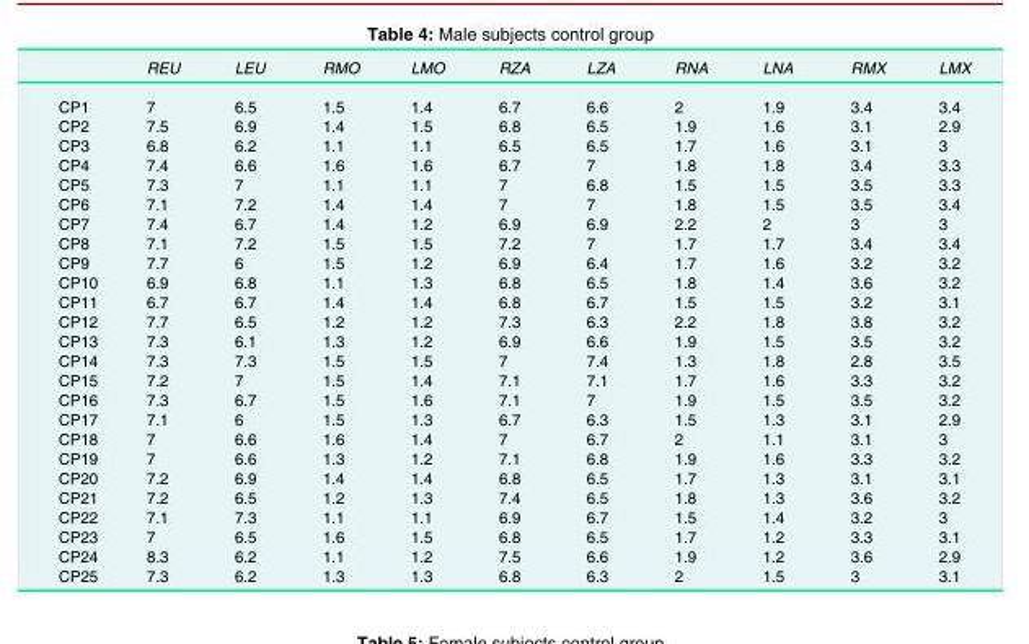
<table><thead><tr><td></td><td>REU</td><td>LEU</td><td>RMO</td><td>LMO</td><td>RZA</td><td>LZA</td><td>RNA</td><td>LNA</td><td>RMX</td><td>LMX</td></tr></thead><tbody><tr><td>CP1</td><td>7</td><td>6.5</td><td>1.5</td><td>1.4</td><td>6.7</td><td>6.6</td><td>2</td><td>1.9</td><td>3.4</td><td>3.4</td></tr><tr><td>CP2</td><td>7.5</td><td>6.9</td><td>1.4</td><td>1.5</td><td>6.8</td><td>6.5</td><td>1.9</td><td>1.6</td><td>3.1</td><td>2.9</td></tr><tr><td>CP3</td><td>6.8</td><td>6.2</td><td>1.1</td><td>1.1</td><td>6.5</td><td>6.5</td><td>1.7</td><td>1.6</td><td>3.1</td><td>3</td></tr><tr><td>CP4</td><td>7.4</td><td>6.6</td><td>1.6</td><td>1.6</td><td>6.7</td><td>7</td><td>1.8</td><td>1.8</td><td>3.4</td><td>3.3</td></tr><tr><td>CP5</td><td>7.3</td><td>7</td><td>1.1</td><td>1.1</td><td>7</td><td>6.8</td><td>1.5</td><td>1.5</td><td>3.5</td><td>3.3</td></tr><tr><td>CP6</td><td>7.1</td><td>7.2</td><td>1.4</td><td>1.4</td><td>7</td><td>7</td><td>1.8</td><td>1.5</td><td>3.5</td><td>3.4</td></tr><tr><td>CP7</td><td>7.4</td><td>6.7</td><td>1.4</td><td>1.2</td><td>6.9</td><td>6.9</td><td>2.2</td><td>2</td><td>3</td><td>3</td></tr><tr><td>CP8</td><td>7.1</td><td>7.2</td><td>1.5</td><td>1.5</td><td>7.2</td><td>7</td><td>1.7</td><td>1.7</td><td>3.4</td><td>3.4</td></tr><tr><td>CP9</td><td>7.7</td><td>6</td><td>1.5</td><td>1.2</td><td>6.9</td><td>6.4</td><td>1.7</td><td>1.6</td><td>3.2</td><td>3.2</td></tr><tr><td>CP10</td><td>6.9</td><td>6.8</td><td>1.1</td><td>1.3</td><td>6.8</td><td>6.5</td><td>1.8</td><td>1.4</td><td>3.6</td><td>3.2</td></tr><tr><td>CP11</td><td>6.7</td><td>6.7</td><td>1.4</td><td>1.4</td><td>6.8</td><td>6.7</td><td>1.5</td><td>1.5</td><td>3.2</td><td>3.1</td></tr><tr><td>CP12</td><td>7.7</td><td>6.5</td><td>1.2</td><td>1.2</td><td>7.3</td><td>6.3</td><td>2.2</td><td>1.8</td><td>3.8</td><td>3.2</td></tr><tr><td>CP13</td><td>7.3</td><td>6.1</td><td>1.3</td><td>1.2</td><td>6.9</td><td>6.6</td><td>1.9</td><td>1.5</td><td>3.5</td><td>3.2</td></tr><tr><td>CP14</td><td>7.3</td><td>7.3</td><td>1.5</td><td>1.5</td><td>7</td><td>7.4</td><td>1.3</td><td>1.8</td><td>2.8</td><td>3.5</td></tr><tr><td>CP15</td><td>7.2</td><td>7</td><td>1.5</td><td>1.4</td><td>7.1</td><td>7.1</td><td>1.7</td><td>1.6</td><td>3.3</td><td>3.2</td></tr><tr><td>CP16</td><td>7.3</td><td>6.7</td><td>1.5</td><td>1.6</td><td>7.1</td><td>7</td><td>1.9</td><td>1.5</td><td>3.5</td><td>3.2</td></tr><tr><td>CP17</td><td>7.1</td><td>6</td><td>1.5</td><td>1.3</td><td>6.7</td><td>6.3</td><td>1.5</td><td>1.3</td><td>3.1</td><td>2.9</td></tr><tr><td>CP18</td><td>7</td><td>6.6</td><td>1.6</td><td>1.4</td><td>7</td><td>6.7</td><td>2</td><td>1.1</td><td>3.1</td><td>3</td></tr><tr><td>CP19</td><td>7</td><td>6.6</td><td>1.3</td><td>1.2</td><td>7.1</td><td>6.8</td><td>1.9</td><td>1.6</td><td>3.3</td><td>3.2</td></tr><tr><td>CP20</td><td>7.2</td><td>6.9</td><td>1.4</td><td>1.4</td><td>6.8</td><td>6.5</td><td>1.7</td><td>1.3</td><td>3.1</td><td>3.1</td></tr><tr><td>CP21</td><td>7.2</td><td>6.5</td><td>1.2</td><td>1.3</td><td>7.4</td><td>6.5</td><td>1.8</td><td>1.3</td><td>3.6</td><td>3.2</td></tr><tr><td>CP22</td><td>7.1</td><td>7.3</td><td>1.1</td><td>1.1</td><td>6.9</td><td>6.7</td><td>1.5</td><td>1.4</td><td>3.2</td><td>3</td></tr><tr><td>CP23</td><td>7</td><td>6.5</td><td>1.6</td><td>1.5</td><td>6.8</td><td>6.5</td><td>1.7</td><td>1.2</td><td>3.3</td><td>3.1</td></tr><tr><td>CP24</td><td>8.3</td><td>6.2</td><td>1.1</td><td>1.2</td><td>7.5</td><td>6.6</td><td>1.9</td><td>1.2</td><td>3.6</td><td>2.9</td></tr><tr><td>CP25</td><td>7.3</td><td>6.2</td><td>1.3</td><td>1.3</td><td>6.8</td><td>6.3</td><td>2</td><td>1.5</td><td>3</td><td>3.1</td></tr></tbody></table>